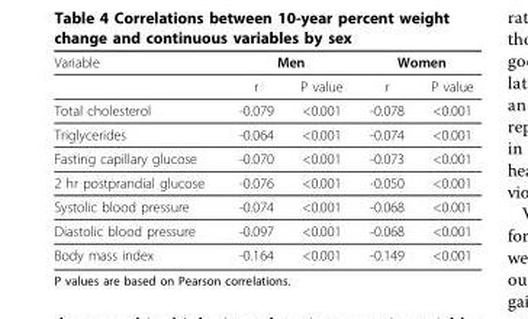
<table><thead><tr><td rowspan="2">Variable</td><td colspan="2">Men</td><td colspan="2">Women</td></tr><tr><td>r</td><td>P value</td><td>r</td><td>P value</td></tr></thead><tbody><tr><td>Total cholesterol</td><td>-0.079</td><td>&lt;0.001</td><td>-0.078</td><td>&lt;0.001</td></tr><tr><td>Triglycerides</td><td>-0.064</td><td>&lt;0.001</td><td>-0.074</td><td>&lt;0.001</td></tr><tr><td>Fasting capillary glucose</td><td>-0.070</td><td>&lt;0.001</td><td>-0.073</td><td>&lt;0.001</td></tr><tr><td>2 hr postprandial glucose</td><td>-0.076</td><td>&lt;0.001</td><td>-0.050</td><td>&lt;0.001</td></tr><tr><td>Systolic blood pressure</td><td>-0.074</td><td>&lt;0.001</td><td>-0.068</td><td>&lt;0.001</td></tr><tr><td>Diastolic blood pressure</td><td>-0.097</td><td>&lt;0.001</td><td>-0.068</td><td>&lt;0.001</td></tr><tr><td>Body mass index</td><td>-0.164</td><td>&lt;0.001</td><td>-0.149</td><td>&lt;0.001</td></tr></tbody></table>